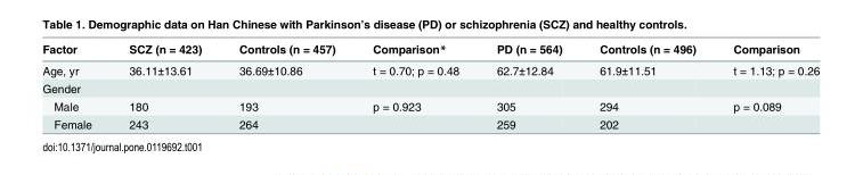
<table><thead><tr><td>Factor</td><td>SCZ (n = 423)</td><td>Controls (n = 457)</td><td>Comparison*</td><td>PD (n = 564)</td><td>Controls (n = 496)</td><td>Comparison</td></tr></thead><tbody><tr><td>Age, yr</td><td>36.11±13.61</td><td>36.69±10.86</td><td>t = 0.70; p = 0.48</td><td>62.7±12.84</td><td>61.9±11.51</td><td>t = 1.13; p = 0.26</td></tr><tr><td colspan="7">Gender</td></tr><tr><td>Male</td><td>180</td><td>193</td><td>p = 0.923</td><td>305</td><td>294</td><td>p = 0.089</td></tr><tr><td>Female</td><td>243</td><td>264</td><td></td><td>259</td><td>202</td><td></td></tr></tbody></table>